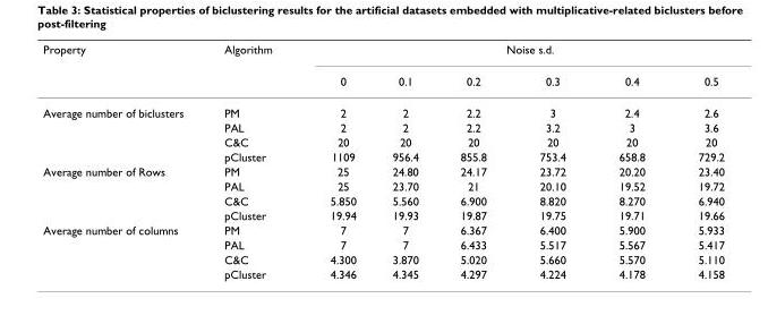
<table><thead><tr><td rowspan="2">Property</td><td rowspan="2">Algorithm</td><td colspan="6">Noise s.d.</td></tr><tr><td>0</td><td>0.1</td><td>0.2</td><td>0.3</td><td>0.4</td><td>0.5</td></tr></thead><tbody><tr><td rowspan="4">Average number of biclusters</td><td>PM</td><td>2</td><td>2</td><td>2.2</td><td>3</td><td>2.4</td><td>2.6</td></tr><tr><td>PAL</td><td>2</td><td>2</td><td>2.2</td><td>3.2</td><td>3</td><td>3.6</td></tr><tr><td>C&amp;C</td><td>20</td><td>20</td><td>20</td><td>20</td><td>20</td><td>20</td></tr><tr><td>pCluster</td><td>1109</td><td>956.4</td><td>855.8</td><td>753.4</td><td>658.8</td><td>729.2</td></tr><tr><td rowspan="4">Average number of Rows</td><td>PM</td><td>25</td><td>24.80</td><td>24.17</td><td>23.72</td><td>20.20</td><td>23.40</td></tr><tr><td>PAL</td><td>25</td><td>23.70</td><td>21</td><td>20.10</td><td>19.52</td><td>19.72</td></tr><tr><td>C&amp;C</td><td>5.850</td><td>5.560</td><td>6.900</td><td>8.820</td><td>8.270</td><td>6.940</td></tr><tr><td>pCluster</td><td>19.94</td><td>19.93</td><td>19.87</td><td>19.75</td><td>19.71</td><td>19.66</td></tr><tr><td rowspan="4">Average number of columns</td><td>PM</td><td>7</td><td>7</td><td>6.367</td><td>6.400</td><td>5.900</td><td>5.933</td></tr><tr><td>PAL</td><td>7</td><td>7</td><td>6.433</td><td>5.517</td><td>5.567</td><td>5.417</td></tr><tr><td>C&amp;C</td><td>4.300</td><td>3.870</td><td>5.020</td><td>5.660</td><td>5.570</td><td>5.110</td></tr><tr><td>pCluster</td><td>4.346</td><td>4.345</td><td>4.297</td><td>4.224</td><td>4.178</td><td>4.158</td></tr></tbody></table>